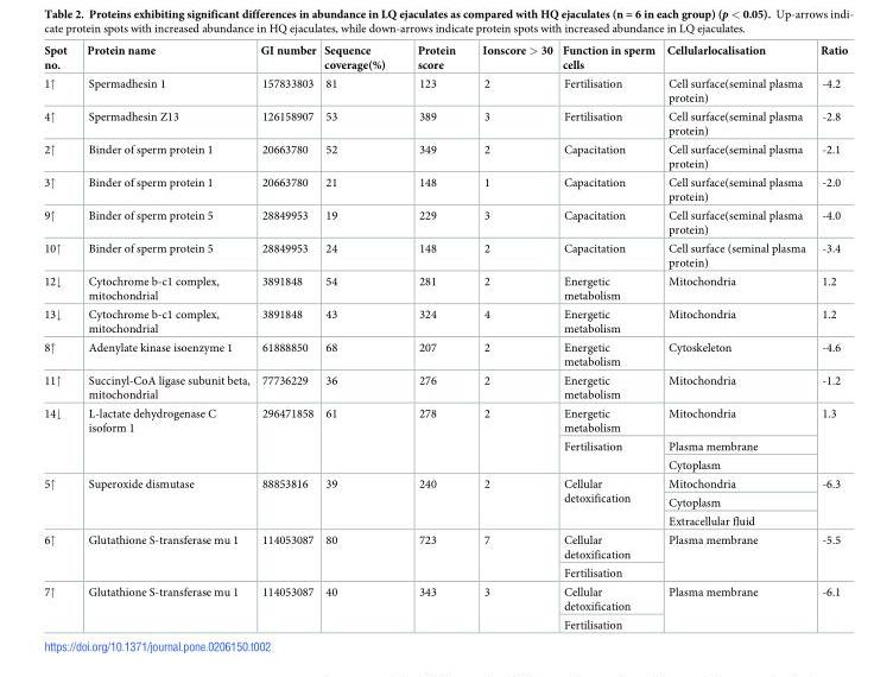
<table><thead><tr><td>Spot no.</td><td>Protein name</td><td>GI number</td><td>Sequence coverage(%)</td><td>Protein score</td><td>Ionscore &gt; 30</td><td>Function in sperm cells</td><td>Cellularlocalisation</td><td>Ratio</td></tr></thead><tbody><tr><td>1↑</td><td>Spermadhesin 1</td><td>157833803</td><td>81</td><td>123</td><td>2</td><td>Fertilisation</td><td>Cell surface(seminal plasma protein)</td><td>-4.2</td></tr><tr><td>4↑</td><td>Spermadhesin Z13</td><td>126158907</td><td>53</td><td>389</td><td>3</td><td>Fertilisation</td><td>Cell surface(seminal plasma protein)</td><td>-2.8</td></tr><tr><td>2↑</td><td>Binder of sperm protein 1</td><td>20663780</td><td>52</td><td>349</td><td>2</td><td>Capacitation</td><td>Cell surface(seminal plasma protein)</td><td>-2.1</td></tr><tr><td>3↑</td><td>Binder of sperm protein 1</td><td>20663780</td><td>21</td><td>148</td><td>1</td><td>Capacitation</td><td>Cell surface(seminal plasma protein)</td><td>-2.0</td></tr><tr><td>9↑</td><td>Binder of sperm protein 5</td><td>28849953</td><td>19</td><td>229</td><td>3</td><td>Capacitation</td><td>Cell surface(seminal plasma protein)</td><td>-4.0</td></tr><tr><td>10↑</td><td>Binder of sperm protein 5</td><td>28849953</td><td>24</td><td>148</td><td>2</td><td>Capacitation</td><td>Cell surface (seminal plasma protein)</td><td>-3.4</td></tr><tr><td>12↓</td><td>Cytochrome b-c1 complex, mitochondrial</td><td>3891848</td><td>54</td><td>281</td><td>2</td><td>Energetic metabolism</td><td>Mitochondria</td><td>1.2</td></tr><tr><td>13↓</td><td>Cytochrome b-c1 complex, mitochondrial</td><td>3891848</td><td>43</td><td>324</td><td>4</td><td>Energetic metabolism</td><td>Mitochondria</td><td>1.2</td></tr><tr><td>8↑</td><td>Adenylate kinase isoenzyme 1</td><td>61888850</td><td>68</td><td>207</td><td>2</td><td>Energetic metabolism</td><td>Cytoskeleton</td><td>-4.6</td></tr><tr><td>11↑</td><td>Succinyl-CoA ligase subunit beta, mitochondrial</td><td>77736229</td><td>36</td><td>276</td><td>2</td><td>Energetic metabolism</td><td>Mitochondria</td><td>-1.2</td></tr><tr><td rowspan="3">14↓</td><td rowspan="3">L-lactate dehydrogenase C isoform 1</td><td rowspan="3">296471858</td><td rowspan="3">61</td><td rowspan="3">278</td><td rowspan="3">2</td><td>Energetic metabolism</td><td>Mitochondria</td><td rowspan="3">1.3</td></tr><tr><td rowspan="2">Fertilisation</td><td>Plasma membrane</td></tr><tr><td>Cytoplasm</td></tr><tr><td rowspan="3">5↑</td><td rowspan="3">Superoxide dismutase</td><td rowspan="3">88853816</td><td rowspan="3">39</td><td rowspan="3">240</td><td rowspan="3">2</td><td rowspan="3">Cellular detoxification</td><td>Mitochondria</td><td rowspan="3">-6.3</td></tr><tr><td>Cytoplasm</td></tr><tr><td>Extracellular fluid</td></tr><tr><td rowspan="2">6↑</td><td rowspan="2">Glutathione S-transferase mu 1</td><td rowspan="2">114053087</td><td rowspan="2">80</td><td rowspan="2">723</td><td rowspan="2">7</td><td>Cellular detoxification</td><td rowspan="2">Plasma membrane</td><td rowspan="2">-5.5</td></tr><tr><td>Fertilisation</td></tr><tr><td rowspan="2">7↑</td><td rowspan="2">Glutathione S-transferase mu 1</td><td rowspan="2">114053087</td><td rowspan="2">40</td><td rowspan="2">343</td><td rowspan="2">3</td><td>Cellular detoxification</td><td rowspan="2">Plasma membrane</td><td rowspan="2">-6.1</td></tr><tr><td>Fertilisation</td></tr></tbody></table>